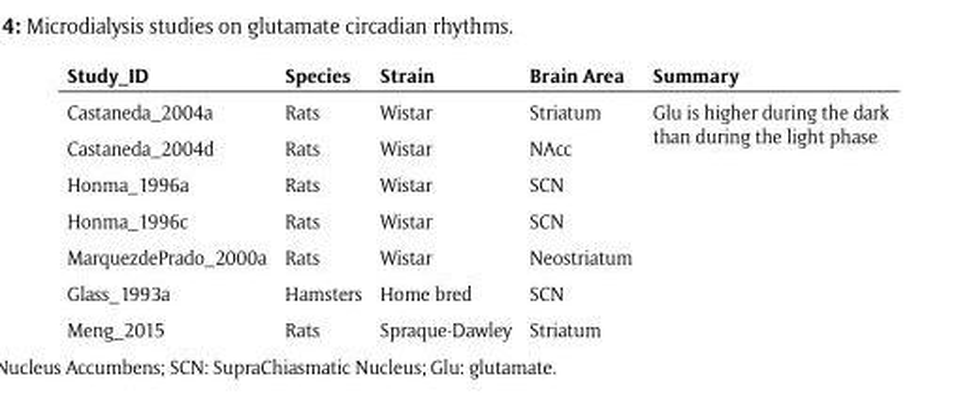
<table><thead><tr><td>Study_ID</td><td>Species</td><td>Strain</td><td>Brain Area</td><td>Summary</td></tr></thead><tbody><tr><td>Castaneda_2004a</td><td>Rats</td><td>Wistar</td><td>Striatum</td><td rowspan="7">Glu is higher during the dark than during the light phase</td></tr><tr><td>Castaneda_2004d</td><td>Rats</td><td>Wistar</td><td>NAcc</td></tr><tr><td>Honma_1996a</td><td>Rats</td><td>Wistar</td><td>SCN</td></tr><tr><td>Honma_1996c</td><td>Rats</td><td>Wistar</td><td>SCN</td></tr><tr><td>MarquezdePrado_2000a</td><td>Rats</td><td>Wistar</td><td>Neostriatum</td></tr><tr><td>Glass_1993a</td><td>Hamsters</td><td>Home bred</td><td>SCN</td></tr><tr><td>Meng_2015</td><td>Rats</td><td>Spraque-Dawley</td><td>Striatum</td></tr></tbody></table>